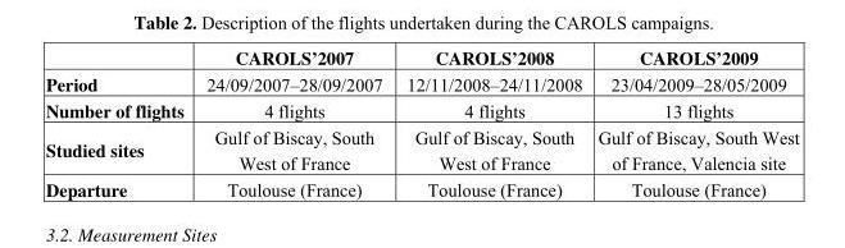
<table><thead><tr><td></td><td>CAROLS’2007</td><td>CAROLS’2008</td><td>CAROLS’2009</td></tr></thead><tbody><tr><td>Period</td><td>24/09/2007–28/09/2007</td><td>12/11/2008–24/11/2008</td><td>23/04/2009–28/05/2009</td></tr><tr><td>Number of flights</td><td>4 flights</td><td>4 flights</td><td>13 flights</td></tr><tr><td>Studied sites</td><td>Gulf of Biscay, South West of France</td><td>Gulf of Biscay, South West of France</td><td>Gulf of Biscay, South West of France, Valencia site</td></tr><tr><td>Departure</td><td>Toulouse (France)</td><td>Toulouse (France)</td><td>Toulouse (France)</td></tr></tbody></table>